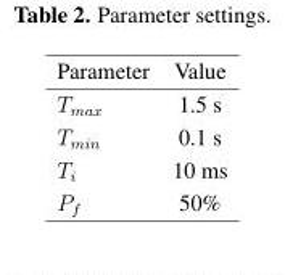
<table><thead><tr><td>Parameter</td><td>Value</td></tr></thead><tbody><tr><td>T<sub>max</sub></td><td>1.5 s</td></tr><tr><td>T<sub>min</sub></td><td>0.1 s</td></tr><tr><td>T<sub>i</sub></td><td>10 ms</td></tr><tr><td>P<sub>f</sub></td><td>50%</td></tr></tbody></table>